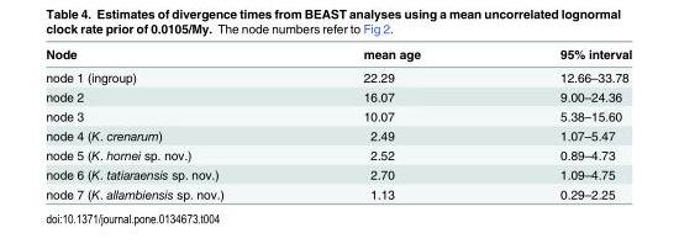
<table><thead><tr><td>Node</td><td>mean age</td><td>95% interval</td></tr></thead><tbody><tr><td>node 1 (ingroup)</td><td>22.29</td><td>12.66–33.78</td></tr><tr><td>node 2</td><td>16.07</td><td>9.00–24.36</td></tr><tr><td>node 3</td><td>10.07</td><td>5.38–15.60</td></tr><tr><td>node 4 (K. crenarum)</td><td>2.49</td><td>1.07–5.47</td></tr><tr><td>node 5 (K. hornei sp. nov.)</td><td>2.52</td><td>0.89–4.73</td></tr><tr><td>node 6 (K. tatiaraensis sp. nov.)</td><td>2.70</td><td>1.09–4.75</td></tr><tr><td>node 7 (K. allambiensis sp. nov.)</td><td>1.13</td><td>0.29–2.25</td></tr></tbody></table>